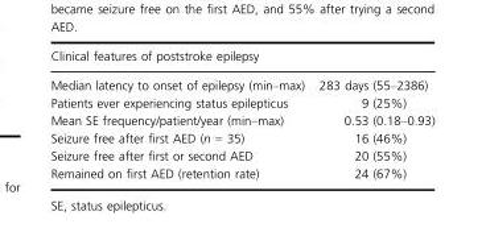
<table><thead><tr><td>Clinical features of poststroke epilepsy</td><td></td></tr></thead><tbody><tr><td>Median latency to onset of epilepsy (min–max)</td><td>283 days (55–2386)</td></tr><tr><td>Patients ever experiencing status epilepticus</td><td>9 (25%)</td></tr><tr><td>Mean SE frequency/patient/year (min–max)</td><td>0.53 (0.18–0.93)</td></tr><tr><td>Seizure free after first AED (n = 35)</td><td>16 (46%)</td></tr><tr><td>Seizure free after first or second AED</td><td>20 (55%)</td></tr><tr><td>Remained on first AED (retention rate)</td><td>24 (67%)</td></tr></tbody></table>